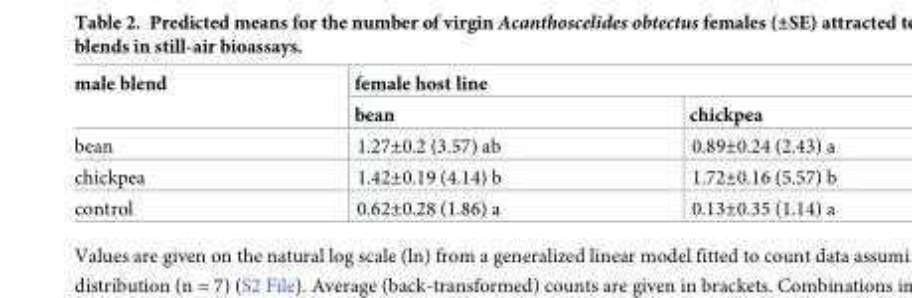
<table><thead><tr><td rowspan="2">male blend</td><td colspan="2">female host line</td></tr><tr><td>bean</td><td>chickpea</td></tr></thead><tbody><tr><td>bean</td><td>1.27±0.2 (3.57) ab</td><td>0.89±0.24 (2.43) a</td></tr><tr><td>chickpea</td><td>1.42±0.19 (4.14) b</td><td>1.72±0.16 (5.57) b</td></tr><tr><td>control</td><td>0.62±0.28 (1.86) a</td><td>0.13±0.35 (1.14) a</td></tr></tbody></table>